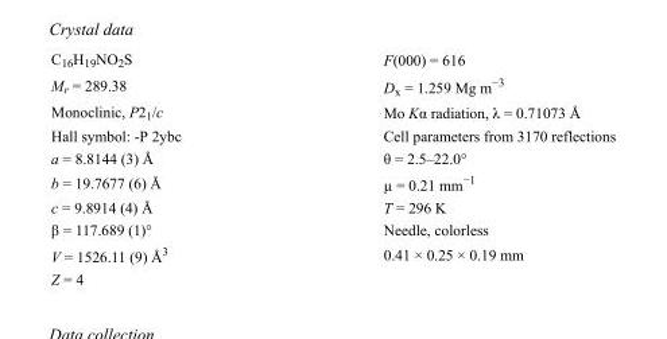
<table><tbody><tr><td>C<sub>16</sub>H<sub>19</sub>NO<sub>2</sub>S</td><td>F(000) = 616</td></tr><tr><td>M<sub>r</sub> = 289.38</td><td>D<sub>x</sub> = 1.259 Mg m<sup>−3</sup></td></tr><tr><td>Monoclinic, P2<sub>1</sub>/c</td><td>Mo Kα radiation, λ = 0.71073 Å</td></tr><tr><td>Hall symbol: -P 2ybc</td><td>Cell parameters from 3170 reflections</td></tr><tr><td>a = 8.8144 (3) Å</td><td>θ = 2.5–22.0°</td></tr><tr><td>b = 19.7677 (6) Å</td><td>µ = 0.21 mm<sup>−1</sup></td></tr><tr><td>c = 9.8914 (4) Å</td><td>T = 296 K</td></tr><tr><td>β = 117.689 (1)°</td><td>Needle, colorless</td></tr><tr><td>V = 1526.11 (9) Å<sup>3</sup></td><td>0.41 × 0.25 × 0.19 mm</td></tr><tr><td>Z = 4</td><td></td></tr></tbody></table>